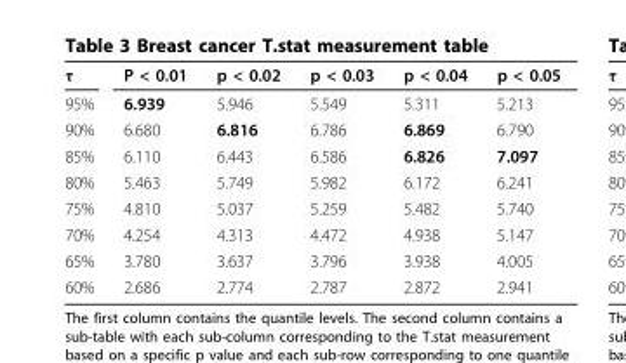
<table><tbody><tr><td>τ</td><td>P &lt; 0.01</td><td>p &lt; 0.02</td><td>p &lt; 0.03</td><td>p &lt; 0.04</td><td>p &lt; 0.05</td></tr><tr><td>95%</td><td>6.939</td><td>5.946</td><td>5.549</td><td>5.311</td><td>5.213</td></tr><tr><td>90%</td><td>6.680</td><td>6.816</td><td>6.786</td><td>6.869</td><td>6.790</td></tr><tr><td>85%</td><td>6.110</td><td>6.443</td><td>6.586</td><td>6.826</td><td>7.097</td></tr><tr><td>80%</td><td>5.463</td><td>5.749</td><td>5.982</td><td>6.172</td><td>6.241</td></tr><tr><td>75%</td><td>4.810</td><td>5.037</td><td>5.259</td><td>5.482</td><td>5.740</td></tr><tr><td>70%</td><td>4.254</td><td>4.313</td><td>4.472</td><td>4.938</td><td>5.147</td></tr><tr><td>65%</td><td>3.780</td><td>3.637</td><td>3.796</td><td>3.938</td><td>4.005</td></tr><tr><td>60%</td><td>2.686</td><td>2.774</td><td>2.787</td><td>2.872</td><td>2.941</td></tr></tbody></table>